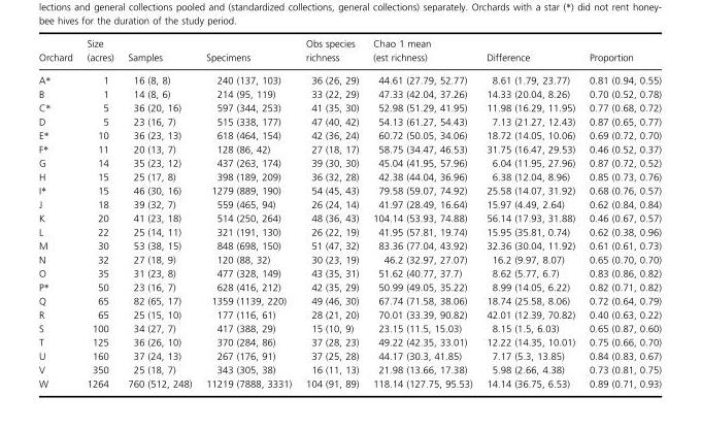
<table><thead><tr><td>Orchard</td><td>Size (acres)</td><td>Samples</td><td>Specimens</td><td>Obs species richness</td><td>Chao 1 mean (est richness)</td><td>Difference</td><td>Proportion</td></tr></thead><tbody><tr><td>A*</td><td>1</td><td>16 (8, 8)</td><td>240 (137, 103)</td><td>36 (26, 29)</td><td>44.61 (27.79, 52.77)</td><td>8.61 (1.79, 23.77)</td><td>0.81 (0.94, 0.55)</td></tr><tr><td>B</td><td>1</td><td>14 (8, 6)</td><td>214 (95, 119)</td><td>33 (22, 29)</td><td>47.33 (42.04, 37.26)</td><td>14.33 (20.04, 8.26)</td><td>0.70 (0.52, 0.78)</td></tr><tr><td>C*</td><td>5</td><td>36 (20, 16)</td><td>597 (344, 253)</td><td>41 (35, 30)</td><td>52.98 (51.29, 41.95)</td><td>11.98 (16.29, 11.95)</td><td>0.77 (0.68, 0.72)</td></tr><tr><td>D</td><td>5</td><td>23 (16, 7)</td><td>515 (338, 177)</td><td>47 (40, 42)</td><td>54.13 (61.27, 54.43)</td><td>7.13 (21.27, 12.43)</td><td>0.87 (0.65, 0.77)</td></tr><tr><td>E*</td><td>10</td><td>36 (23, 13)</td><td>618 (464, 154)</td><td>42 (36, 24)</td><td>60.72 (50.05, 34.06)</td><td>18.72 (14.05, 10.06)</td><td>0.69 (0.72, 0.70)</td></tr><tr><td>F*</td><td>11</td><td>20 (13, 7)</td><td>128 (86, 42)</td><td>27 (18, 17)</td><td>58.75 (34.47, 46.53)</td><td>31.75 (16.47, 29.53)</td><td>0.46 (0.52, 0.37)</td></tr><tr><td>G</td><td>14</td><td>35 (23, 12)</td><td>437 (263, 174)</td><td>39 (30, 30)</td><td>45.04 (41.95, 57.96)</td><td>6.04 (11.95, 27.96)</td><td>0.87 (0.72, 0.52)</td></tr><tr><td>H</td><td>15</td><td>25 (17, 8)</td><td>398 (189, 209)</td><td>36 (32, 28)</td><td>42.38 (44.04, 36.96)</td><td>6.38 (12.04, 8.96)</td><td>0.85 (0.73, 0.76)</td></tr><tr><td>I*</td><td>15</td><td>46 (30, 16)</td><td>1279 (889, 190)</td><td>54 (45, 43)</td><td>79.58 (59.07, 74.92)</td><td>25.58 (14.07, 31.92)</td><td>0.68 (0.76, 0.57)</td></tr><tr><td>J</td><td>18</td><td>39 (32, 7)</td><td>559 (465, 94)</td><td>26 (24, 14)</td><td>41.97 (28.49, 16.64)</td><td>15.97 (4.49, 2.64)</td><td>0.62 (0.84, 0.84)</td></tr><tr><td>K</td><td>20</td><td>41 (23, 18)</td><td>514 (250, 264)</td><td>48 (36, 43)</td><td>104.14 (53.93, 74.88)</td><td>56.14 (17.93, 31.88)</td><td>0.46 (0.67, 0.57)</td></tr><tr><td>L</td><td>22</td><td>25 (14, 11)</td><td>321 (191, 130)</td><td>26 (22, 19)</td><td>41.95 (57.81, 19.74)</td><td>15.95 (35.81, 0.74)</td><td>0.62 (0.38, 0.96)</td></tr><tr><td>M</td><td>30</td><td>53 (38, 15)</td><td>848 (698, 150)</td><td>51 (47, 32)</td><td>83.36 (77.04, 43.92)</td><td>32.36 (30.04, 11.92)</td><td>0.61 (0.61, 0.73)</td></tr><tr><td>N</td><td>32</td><td>27 (18, 9)</td><td>120 (88, 32)</td><td>30 (23, 19)</td><td>46.2 (32.97, 27.07)</td><td>16.2 (9.97, 8.07)</td><td>0.65 (0.70, 0.70)</td></tr><tr><td>O</td><td>35</td><td>31 (23, 8)</td><td>477 (328, 149)</td><td>43 (35, 31)</td><td>51.62 (40.77, 37.7)</td><td>8.62 (5.77, 6.7)</td><td>0.83 (0.86, 0.82)</td></tr><tr><td>P*</td><td>50</td><td>23 (16, 7)</td><td>628 (416, 212)</td><td>42 (35, 29)</td><td>50.99 (49.05, 35.22)</td><td>8.99 (14.05, 6.22)</td><td>0.82 (0.71, 0.82)</td></tr><tr><td>Q</td><td>65</td><td>82 (65, 17)</td><td>1359 (1139, 220)</td><td>49 (46, 30)</td><td>67.74 (71.58, 38.06)</td><td>18.74 (25.58, 8.06)</td><td>0.72 (0.64, 0.79)</td></tr><tr><td>R</td><td>65</td><td>25 (15, 10)</td><td>177 (116, 61)</td><td>28 (21, 20)</td><td>70.01 (33.39, 90.82)</td><td>42.01 (12.39, 70.82)</td><td>0.40 (0.63, 0.22)</td></tr><tr><td>S</td><td>100</td><td>34 (27, 7)</td><td>417 (388, 29)</td><td>15 (10, 9)</td><td>23.15 (11.5, 15.03)</td><td>8.15 (1.5, 6.03)</td><td>0.65 (0.87, 0.60)</td></tr><tr><td>T</td><td>125</td><td>36 (26, 10)</td><td>370 (284, 86)</td><td>37 (28, 23)</td><td>49.22 (42.35, 33.01)</td><td>12.22 (14.35, 10.01)</td><td>0.75 (0.66, 0.70)</td></tr><tr><td>U</td><td>160</td><td>37 (24, 13)</td><td>267 (176, 91)</td><td>37 (25, 28)</td><td>44.17 (30.3, 41.85)</td><td>7.17 (5.3, 13.85)</td><td>0.84 (0.83, 0.67)</td></tr><tr><td>V</td><td>350</td><td>25 (18, 7)</td><td>343 (305, 38)</td><td>16 (11, 13)</td><td>21.98 (13.66, 17.38)</td><td>5.98 (2.66, 4.38)</td><td>0.73 (0.81, 0.75)</td></tr><tr><td>W</td><td>1264</td><td>760 (512, 248)</td><td>11219 (7888, 3331)</td><td>104 (91, 89)</td><td>118.14 (127.75, 95.53)</td><td>14.14 (36.75, 6.53)</td><td>0.89 (0.71, 0.93)</td></tr></tbody></table>